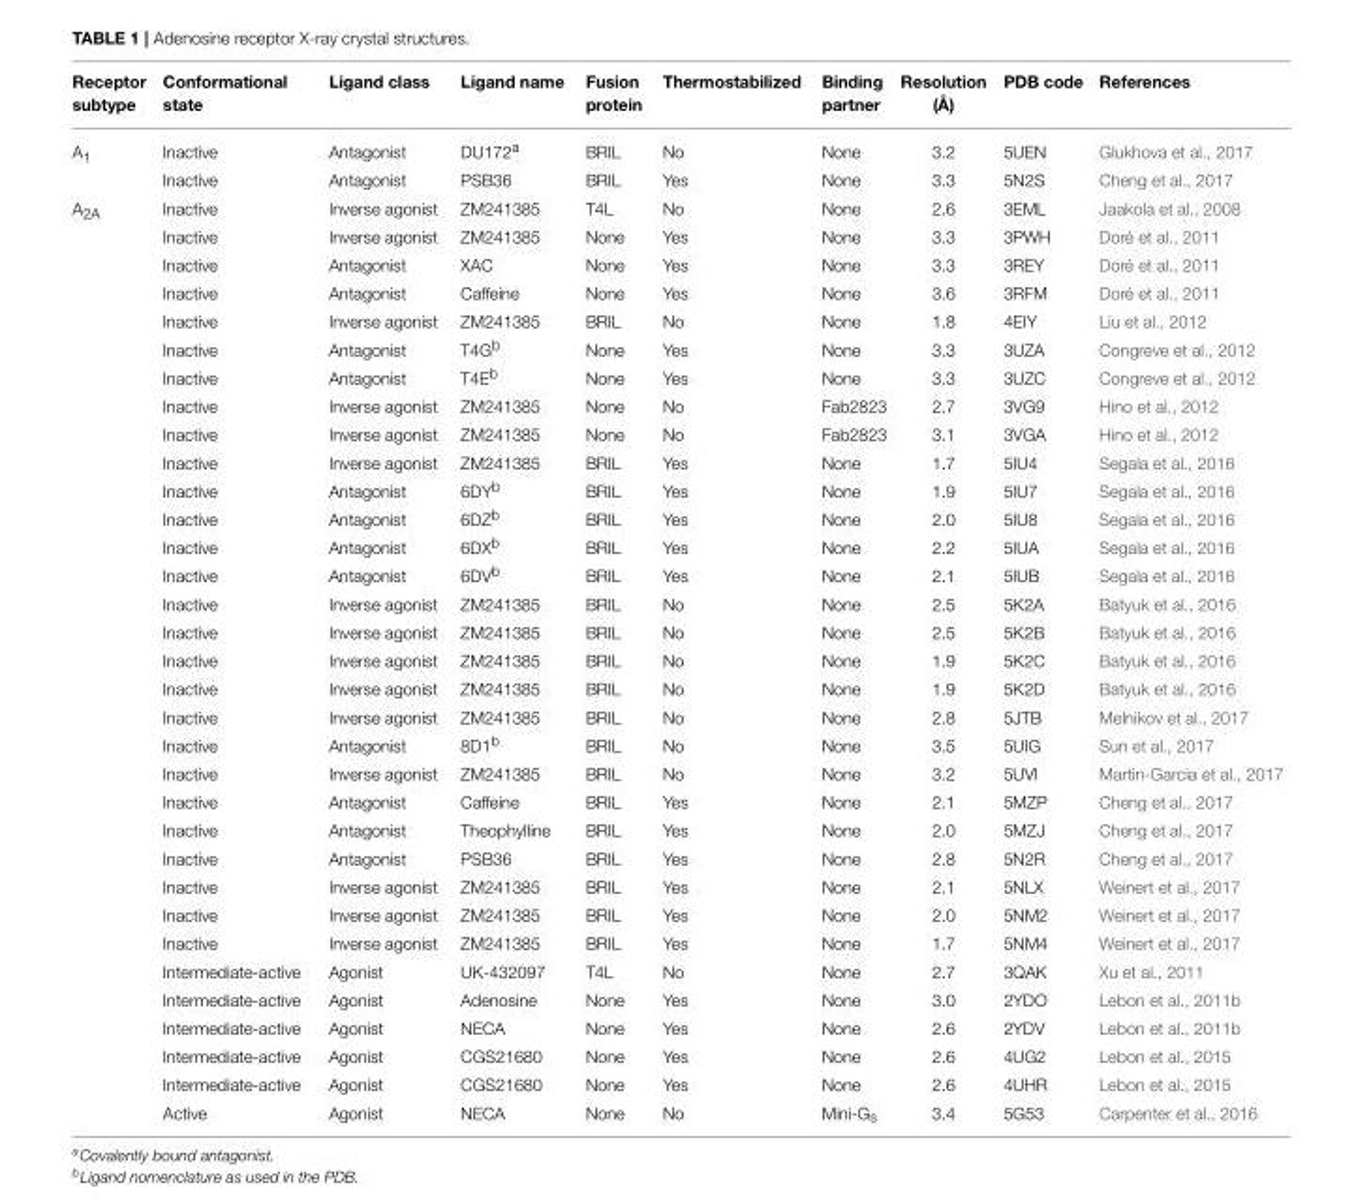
<table><thead><tr><td>Receptor subtype</td><td>Conformational state</td><td>Ligand class</td><td>Ligand name</td><td>Fusion protein</td><td>Thermostabilized</td><td>Binding partner</td><td>Resolution (Å)</td><td>PDB code</td><td>References</td></tr></thead><tbody><tr><td rowspan="2">A<sub>1</sub></td><td>Inactive</td><td>Antagonist</td><td>DU172<sup>a</sup></td><td>BRIL</td><td>No</td><td>None</td><td>3.2</td><td>5UEN</td><td>Glukhova et al., 2017</td></tr><tr><td>Inactive</td><td>Antagonist</td><td>PSB36</td><td>BRIL</td><td>Yes</td><td>None</td><td>3.3</td><td>5N2S</td><td>Cheng et al., 2017</td></tr><tr><td rowspan="33">A<sub>2A</sub></td><td>Inactive</td><td>Inverse agonist</td><td>ZM241385</td><td>T4L</td><td>No</td><td>None</td><td>2.6</td><td>3EML</td><td>Jaakola et al., 2008</td></tr><tr><td>Inactive</td><td>Inverse agonist</td><td>ZM241385</td><td>None</td><td>Yes</td><td>None</td><td>3.3</td><td>3PWH</td><td>Doré et al., 2011</td></tr><tr><td>Inactive</td><td>Antagonist</td><td>XAC</td><td>None</td><td>Yes</td><td>None</td><td>3.3</td><td>3REY</td><td>Doré et al., 2011</td></tr><tr><td>Inactive</td><td>Antagonist</td><td>Caffeine</td><td>None</td><td>Yes</td><td>None</td><td>3.6</td><td>3RFM</td><td>Doré et al., 2011</td></tr><tr><td>Inactive</td><td>Inverse agonist</td><td>ZM241385</td><td>BRIL</td><td>No</td><td>None</td><td>1.8</td><td>4EIY</td><td>Liu et al., 2012</td></tr><tr><td>Inactive</td><td>Antagonist</td><td>T4G<sup>b</sup></td><td>None</td><td>Yes</td><td>None</td><td>3.3</td><td>3UZA</td><td>Congreve et al., 2012</td></tr><tr><td>Inactive</td><td>Antagonist</td><td>T4E<sup>b</sup></td><td>None</td><td>Yes</td><td>None</td><td>3.3</td><td>3UZC</td><td>Congreve et al., 2012</td></tr><tr><td>Inactive</td><td>Inverse agonist</td><td>ZM241385</td><td>None</td><td>No</td><td>Fab2823</td><td>2.7</td><td>3VG9</td><td>Hino et al., 2012</td></tr><tr><td>Inactive</td><td>Inverse agonist</td><td>ZM241385</td><td>None</td><td>No</td><td>Fab2823</td><td>3.1</td><td>3VGA</td><td>Hino et al., 2012</td></tr><tr><td>Inactive</td><td>Inverse agonist</td><td>ZM241385</td><td>BRIL</td><td>Yes</td><td>None</td><td>1.7</td><td>5IU4</td><td>Segala et al., 2016</td></tr><tr><td>Inactive</td><td>Antagonist</td><td>6DY<sup>b</sup></td><td>BRIL</td><td>Yes</td><td>None</td><td>1.9</td><td>5IU7</td><td>Segala et al., 2016</td></tr><tr><td>Inactive</td><td>Antagonist</td><td>6DZ<sup>b</sup></td><td>BRIL</td><td>Yes</td><td>None</td><td>2.0</td><td>5IU8</td><td>Segala et al., 2016</td></tr><tr><td>Inactive</td><td>Antagonist</td><td>6DX<sup>b</sup></td><td>BRIL</td><td>Yes</td><td>None</td><td>2.2</td><td>5IUA</td><td>Segala et al., 2016</td></tr><tr><td>Inactive</td><td>Antagonist</td><td>6DV<sup>b</sup></td><td>BRIL</td><td>Yes</td><td>None</td><td>2.1</td><td>5IUB</td><td>Segala et al., 2016</td></tr><tr><td>Inactive</td><td>Inverse agonist</td><td>ZM241385</td><td>BRIL</td><td>No</td><td>None</td><td>2.5</td><td>5K2A</td><td>Batyuk et al., 2016</td></tr><tr><td>Inactive</td><td>Inverse agonist</td><td>ZM241385</td><td>BRIL</td><td>No</td><td>None</td><td>2.5</td><td>5K2B</td><td>Batyuk et al., 2016</td></tr><tr><td>Inactive</td><td>Inverse agonist</td><td>ZM241385</td><td>BRIL</td><td>No</td><td>None</td><td>1.9</td><td>5K2C</td><td>Batyuk et al., 2016</td></tr><tr><td>Inactive</td><td>Inverse agonist</td><td>ZM241385</td><td>BRIL</td><td>No</td><td>None</td><td>1.9</td><td>5K2D</td><td>Batyuk et al., 2016</td></tr><tr><td>Inactive</td><td>Inverse agonist</td><td>ZM241385</td><td>BRIL</td><td>No</td><td>None</td><td>2.8</td><td>5JTB</td><td>Melnikov et al., 2017</td></tr><tr><td>Inactive</td><td>Antagonist</td><td>8D1<sup>b</sup></td><td>BRIL</td><td>No</td><td>None</td><td>3.5</td><td>5UIG</td><td>Sun et al., 2017</td></tr><tr><td>Inactive</td><td>Inverse agonist</td><td>ZM241385</td><td>BRIL</td><td>No</td><td>None</td><td>3.2</td><td>5UVI</td><td>Martin-Garcia et al., 2017</td></tr><tr><td>Inactive</td><td>Antagonist</td><td>Caffeine</td><td>BRIL</td><td>Yes</td><td>None</td><td>2.1</td><td>5MZP</td><td>Cheng et al., 2017</td></tr><tr><td>Inactive</td><td>Antagonist</td><td>Theophylline</td><td>BRIL</td><td>Yes</td><td>None</td><td>2.0</td><td>5MZJ</td><td>Cheng et al., 2017</td></tr><tr><td>Inactive</td><td>Antagonist</td><td>PSB36</td><td>BRIL</td><td>Yes</td><td>None</td><td>2.8</td><td>5N2R</td><td>Cheng et al., 2017</td></tr><tr><td>Inactive</td><td>Inverse agonist</td><td>ZM241385</td><td>BRIL</td><td>Yes</td><td>None</td><td>2.1</td><td>5NLX</td><td>Weinert et al., 2017</td></tr><tr><td>Inactive</td><td>Inverse agonist</td><td>ZM241385</td><td>BRIL</td><td>Yes</td><td>None</td><td>2.0</td><td>5NM2</td><td>Weinert et al., 2017</td></tr><tr><td>Inactive</td><td>Inverse agonist</td><td>ZM241385</td><td>BRIL</td><td>Yes</td><td>None</td><td>1.7</td><td>5NM4</td><td>Weinert et al., 2017</td></tr><tr><td>Intermediate-active</td><td>Agonist</td><td>UK-432097</td><td>T4L</td><td>No</td><td>None</td><td>2.7</td><td>3QAK</td><td>Xu et al., 2011</td></tr><tr><td>Intermediate-active</td><td>Agonist</td><td>Adenosine</td><td>None</td><td>Yes</td><td>None</td><td>3.0</td><td>2YDO</td><td>Lebon et al., 2011b</td></tr><tr><td>Intermediate-active</td><td>Agonist</td><td>NECA</td><td>None</td><td>Yes</td><td>None</td><td>2.6</td><td>2YDV</td><td>Lebon et al., 2011b</td></tr><tr><td>Intermediate-active</td><td>Agonist</td><td>CGS21680</td><td>None</td><td>Yes</td><td>None</td><td>2.6</td><td>4UG2</td><td>Lebon et al., 2015</td></tr><tr><td>Intermediate-active</td><td>Agonist</td><td>CGS21680</td><td>None</td><td>Yes</td><td>None</td><td>2.6</td><td>4UHR</td><td>Lebon et al., 2015</td></tr><tr><td>Active</td><td>Agonist</td><td>NECA</td><td>None</td><td>No</td><td>Mini-G<sub>s</sub></td><td>3.4</td><td>5G53</td><td>Carpenter et al., 2016</td></tr></tbody></table>